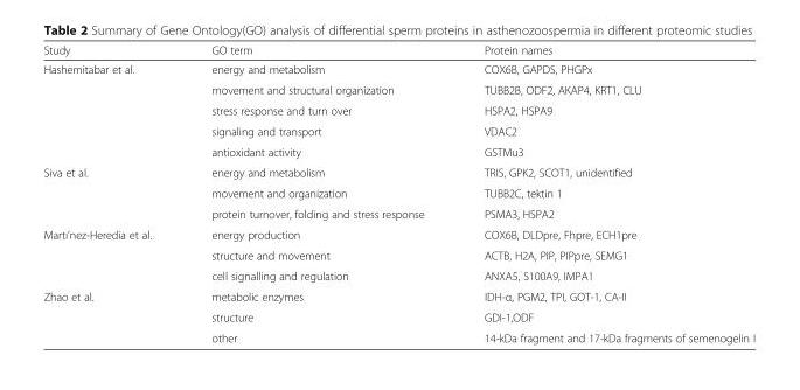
<table><thead><tr><td>Study</td><td>GO term</td><td>Protein names</td></tr></thead><tbody><tr><td rowspan="5">Hashemitabar et al.</td><td>energy and metabolism</td><td>COX6B, GAPDS, PHGPx</td></tr><tr><td>movement and structural organization</td><td>TUBB2B, ODF2, AKAP4, KRT1, CLU</td></tr><tr><td>stress response and turn over</td><td>HSPA2, HSPA9</td></tr><tr><td>signaling and transport</td><td>VDAC2</td></tr><tr><td>antioxidant activity</td><td>GSTMu3</td></tr><tr><td rowspan="3">Siva et al.</td><td>energy and metabolism</td><td>TRIS, GPK2, SCOT1, unidentified</td></tr><tr><td>movement and organization</td><td>TUBB2C, tektin 1</td></tr><tr><td>protein turnover, folding and stress response</td><td>PSMA3, HSPA2</td></tr><tr><td rowspan="3">Martı’nez-Heredia et al.</td><td>energy production</td><td>COX6B, DLDpre, Fhpre, ECH1pre</td></tr><tr><td>structure and movement</td><td>ACTB, H2A, PIP, PIPpre, SEMG1</td></tr><tr><td>cell signalling and regulation</td><td>ANXA5, S100A9, IMPA1</td></tr><tr><td rowspan="3">Zhao et al.</td><td>metabolic enzymes</td><td>IDH-α, PGM2, TPI, GOT-1, CA-II</td></tr><tr><td>structure</td><td>GDI-1,ODF</td></tr><tr><td>other</td><td>14-kDa fragment and 17-kDa fragments of semenogelin I</td></tr></tbody></table>